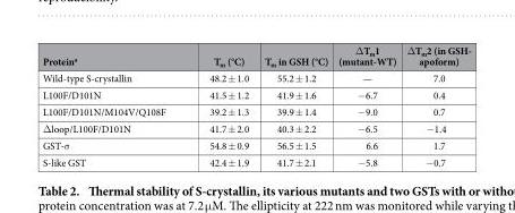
<table><thead><tr><td>Protein<sup>a</sup></td><td>T<sub>m</sub> (°C)</td><td>T<sub>m</sub> in GSH (°C)</td><td>Δ T<sub>m</sub>1 (mutant-WT)</td><td>Δ T<sub>m</sub>2 (in GSH- apoform)</td></tr></thead><tbody><tr><td>Wild-type S-crystallin</td><td>48.2 ± 1.0</td><td>55.2 ± 1.2</td><td>—</td><td>7.0</td></tr><tr><td>L100F/D101N</td><td>41.5 ± 1.2</td><td>41.9 ± 1.6</td><td>− 6.7</td><td>0.4</td></tr><tr><td>L100F/D101N/M104V/Q108F</td><td>39.2 ± 1.3</td><td>39.9 ± 1.4</td><td>− 9.0</td><td>0.7</td></tr><tr><td>Δ loop/L100F/D101N</td><td>41.7 ± 2.0</td><td>40.3 ± 2.2</td><td>− 6.5</td><td>− 1.4</td></tr><tr><td>GST-σ</td><td>54.8 ± 0.9</td><td>56.5 ± 1.5</td><td>6.6</td><td>1.7</td></tr><tr><td>S-like GST</td><td>42.4 ± 1.9</td><td>41.7 ± 2.1</td><td>− 5.8</td><td>− 0.7</td></tr></tbody></table>